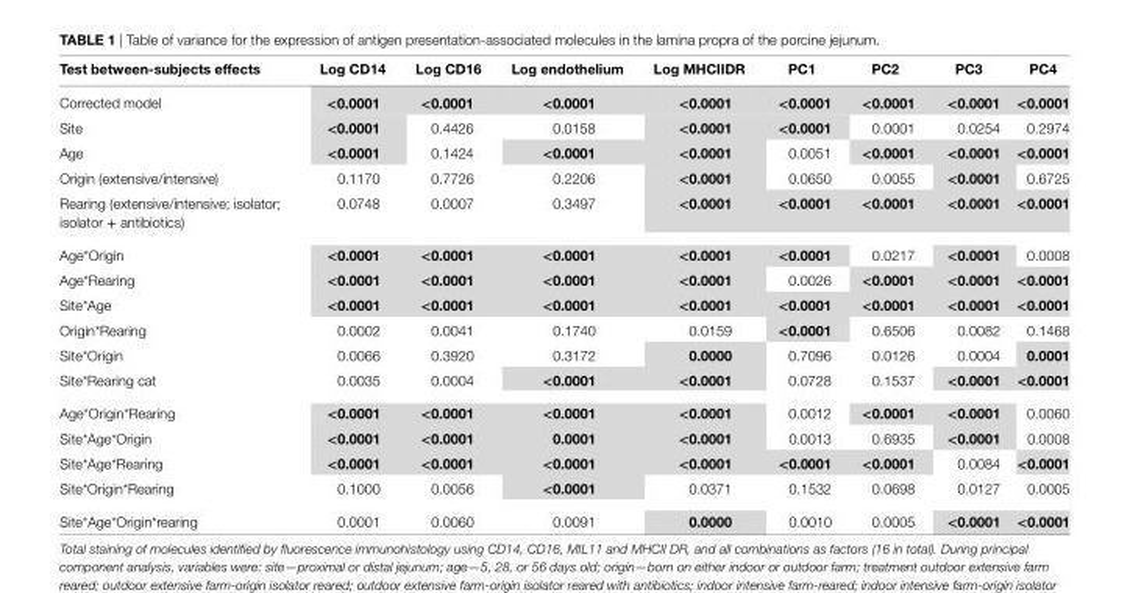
<table><thead><tr><td>Test between-subjects effects</td><td>log cD14</td><td>log cD16</td><td>log endothelium</td><td>log MhciiDr</td><td>Pc1</td><td>Pc2</td><td>Pc3</td><td>Pc4</td></tr></thead><tbody><tr><td>Corrected model</td><td>&lt;0.0001</td><td>&lt;0.0001</td><td>&lt;0.0001</td><td>&lt;0.0001</td><td>&lt;0.0001</td><td>&lt;0.0001</td><td>&lt;0.0001</td><td>&lt;0.0001</td></tr><tr><td>Site</td><td>&lt;0.0001</td><td>0.4426</td><td>0.0158</td><td>&lt;0.0001</td><td>&lt;0.0001</td><td>0.0001</td><td>0.0254</td><td>0.2974</td></tr><tr><td>Age</td><td>&lt;0.0001</td><td>0.1424</td><td>&lt;0.0001</td><td>&lt;0.0001</td><td>0.0051</td><td>&lt;0.0001</td><td>&lt;0.0001</td><td>&lt;0.0001</td></tr><tr><td>Origin (extensive/intensive)</td><td>0.1170</td><td>0.7726</td><td>0.2206</td><td>&lt;0.0001</td><td>0.0650</td><td>0.0055</td><td>&lt;0.0001</td><td>0.6725</td></tr><tr><td>Rearing (extensive/intensive; isolator; isolator + antibiotics)</td><td>0.0748</td><td>0.0007</td><td>0.3497</td><td>&lt;0.0001</td><td>&lt;0.0001</td><td>&lt;0.0001</td><td>&lt;0.0001</td><td>&lt;0.0001</td></tr><tr><td>Age*Origin</td><td>&lt;0.0001</td><td>&lt;0.0001</td><td>&lt;0.0001</td><td>&lt;0.0001</td><td>&lt;0.0001</td><td>0.0217</td><td>&lt;0.0001</td><td>0.0008</td></tr><tr><td>Age*Rearing</td><td>&lt;0.0001</td><td>&lt;0.0001</td><td>&lt;0.0001</td><td>&lt;0.0001</td><td>0.0026</td><td>&lt;0.0001</td><td>&lt;0.0001</td><td>&lt;0.0001</td></tr><tr><td>Site*Age</td><td>&lt;0.0001</td><td>&lt;0.0001</td><td>&lt;0.0001</td><td>&lt;0.0001</td><td>&lt;0.0001</td><td>&lt;0.0001</td><td>&lt;0.0001</td><td>&lt;0.0001</td></tr><tr><td>Origin*Rearing</td><td>0.0002</td><td>0.0041</td><td>0.1740</td><td>0.0159</td><td>&lt;0.0001</td><td>0.6506</td><td>0.0082</td><td>0.1468</td></tr><tr><td>Site*Origin</td><td>0.0066</td><td>0.3920</td><td>0.3172</td><td>0.0000</td><td>0.7096</td><td>0.0126</td><td>0.0004</td><td>0.0001</td></tr><tr><td>Site*Rearing cat</td><td>0.0035</td><td>0.0004</td><td>&lt;0.0001</td><td>&lt;0.0001</td><td>0.0728</td><td>0.1537</td><td>&lt;0.0001</td><td>&lt;0.0001</td></tr><tr><td>Age*Origin*Rearing</td><td>&lt;0.0001</td><td>&lt;0.0001</td><td>&lt;0.0001</td><td>&lt;0.0001</td><td>0.0012</td><td>&lt;0.0001</td><td>&lt;0.0001</td><td>0.0060</td></tr><tr><td>Site*Age*Origin</td><td>&lt;0.0001</td><td>&lt;0.0001</td><td>0.0001</td><td>&lt;0.0001</td><td>0.0013</td><td>0.6935</td><td>&lt;0.0001</td><td>0.0008</td></tr><tr><td>Site*Age*Rearing</td><td>&lt;0.0001</td><td>&lt;0.0001</td><td>&lt;0.0001</td><td>&lt;0.0001</td><td>&lt;0.0001</td><td>&lt;0.0001</td><td>0.0084</td><td>&lt;0.0001</td></tr><tr><td>Site*Origin*Rearing</td><td>0.1000</td><td>0.0056</td><td>&lt;0.0001</td><td>0.0371</td><td>0.1532</td><td>0.0698</td><td>0.0127</td><td>0.0005</td></tr><tr><td>Site*Age*Origin*rearing</td><td>0.0001</td><td>0.0060</td><td>0.0091</td><td>0.0000</td><td>0.0010</td><td>0.0005</td><td>&lt;0.0001</td><td>&lt;0.0001</td></tr></tbody></table>